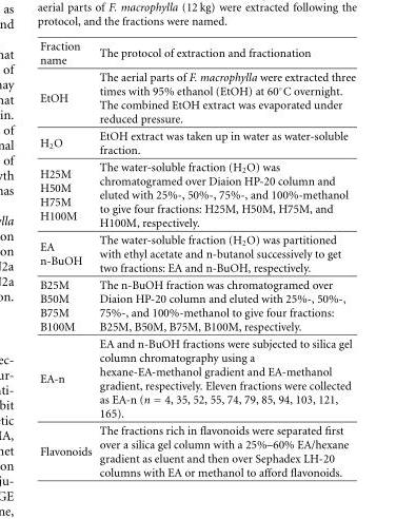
<table><thead><tr><td>Fraction name</td><td>The protocol of extraction and fractionation</td></tr></thead><tbody><tr><td>EtOH</td><td>The aerial parts of F. macrophylla were extracted three times with 95% ethanol (EtOH) at 60◦C overnight. The combined EtOH extract was evaporated under reduced pressure.</td></tr><tr><td>H<sub>2</sub>O</td><td>EtOH extract was taken up in water as water-soluble fraction.</td></tr><tr><td>H25M H50M H75M H100M</td><td>The water-soluble fraction (H<sub>2</sub>O) was chromatogramed over Diaion HP-20 column and eluted with 25%-, 50%-, 75%-, and 100%-methanol to give four fractions: H25M, H50M, H75M, and H100M, respectively.</td></tr><tr><td>EA n-BuOH</td><td>The water-soluble fraction (H<sub>2</sub>O) was partitioned with ethyl acetate and n-butanol successively to get two fractions: EA and n-BuOH, respectively.</td></tr><tr><td>B25M B50M B75M B100M</td><td>The n-BuOH fraction was chromatogramed over Diaion HP-20 column and eluted with 25%-, 50%-, 75%-, and 100%-methanol to give four fractions: B25M, B50M, B75M, B100M, respectively.</td></tr><tr><td>EA-n</td><td>EA and n-BuOH fractions were subjected to silica gel column chromatography using a hexane-EA-methanol gradient and EA-methanol gradient, respectively. Eleven fractions were collected as EA-n (n = 4, 35, 52, 55, 74, 79, 85, 94, 103, 121, 165).</td></tr><tr><td>Flavonoids</td><td>The fractions rich in flavonoids were separated first over a silica gel column with a 25%–60% EA/hexane gradient as eluent and then over Sephadex LH-20 columns with EA or methanol to afford flavonoids.</td></tr></tbody></table>